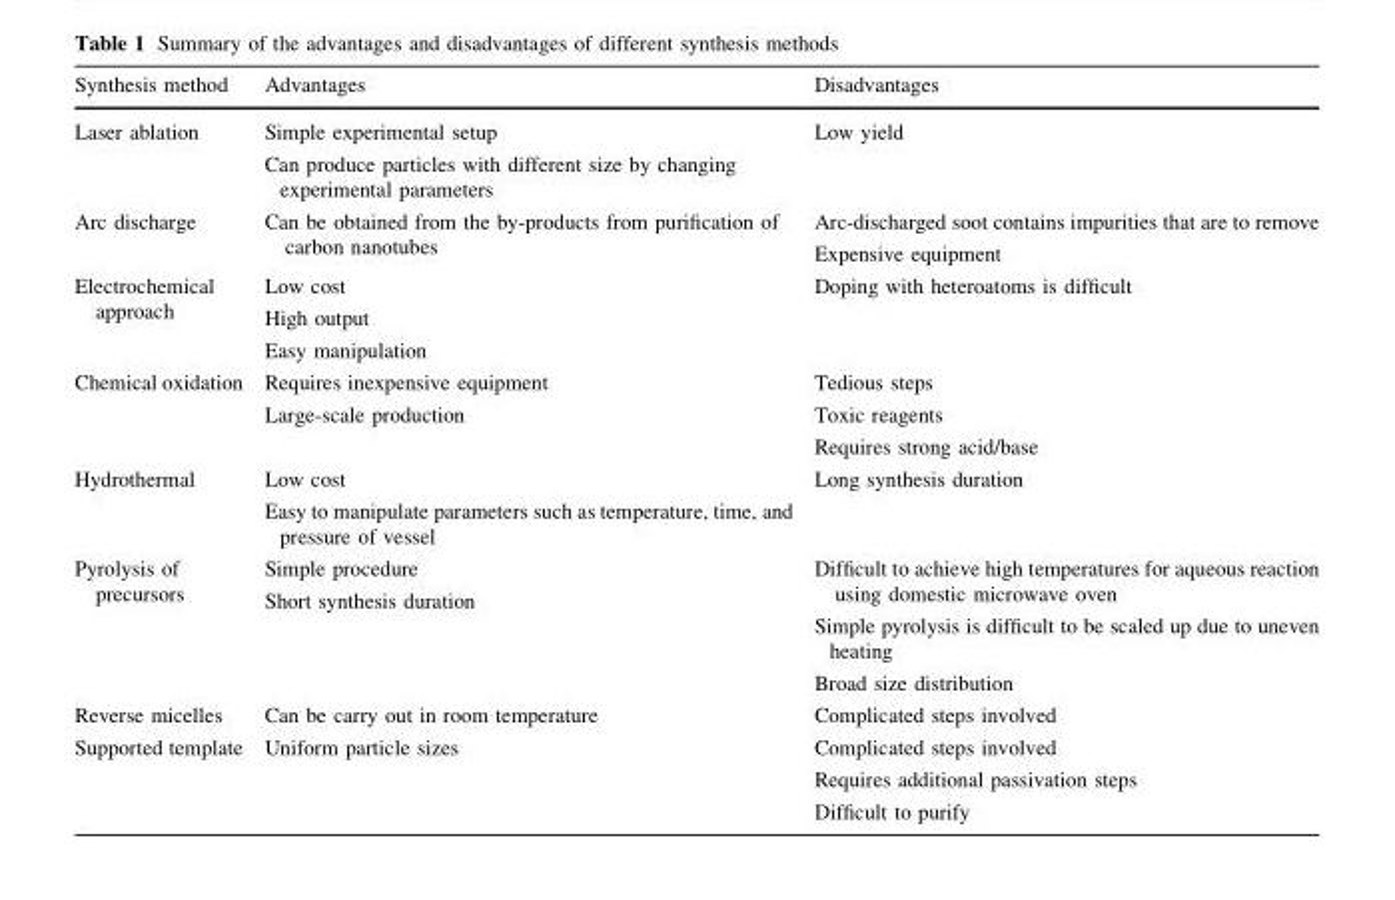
<table><thead><tr><td>Synthesis method</td><td>Advantages</td><td>Disadvantages</td></tr></thead><tbody><tr><td>Laser ablation</td><td>Simple experimental setup Can produce particles with different size by changing experimental parameters</td><td>Low yield</td></tr><tr><td>Arc discharge</td><td>Can be obtained from the by-products from purification of carbon nanotubes</td><td>Arc-discharged soot contains impurities that are to remove Expensive equipment</td></tr><tr><td>Electrochemical approach</td><td>Low cost High output Easy manipulation</td><td>Doping with heteroatoms is difficult</td></tr><tr><td>Chemical oxidation</td><td>Requires inexpensive equipment Large-scale production</td><td>Tedious steps Toxic reagents Requires strong acid/base</td></tr><tr><td>Hydrothermal</td><td>Low cost Easy to manipulate parameters such as temperature, time, and pressure of vessel</td><td>Long synthesis duration</td></tr><tr><td>Pyrolysis of precursors</td><td>Simple procedure Short synthesis duration</td><td>Difficult to achieve high temperatures for aqueous reaction using domestic microwave oven Simple pyrolysis is difficult to be scaled up due to uneven heating Broad size distribution</td></tr><tr><td>Reverse micelles</td><td>Can be carry out in room temperature</td><td>Complicated steps involved</td></tr><tr><td>Supported template</td><td>Uniform particle sizes</td><td>Complicated steps involved Requires additional passivation steps Difficult to purify</td></tr></tbody></table>